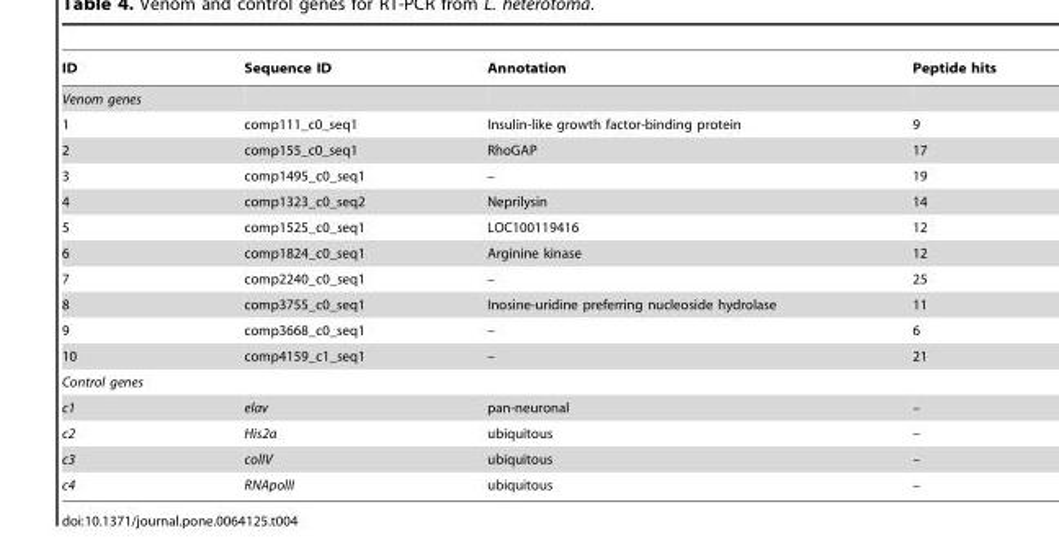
<table><thead><tr><td>ID</td><td>Sequence ID</td><td>Annotation</td><td>Peptide hits</td></tr></thead><tbody><tr><td colspan="4">Venom genes</td></tr><tr><td>1</td><td>comp111_c0_seq1</td><td>Insulin-like growth factor-binding protein</td><td>9</td></tr><tr><td>2</td><td>comp155_c0_seq1</td><td>RhoGAP</td><td>17</td></tr><tr><td>3</td><td>comp1495_c0_seq1</td><td>–</td><td>19</td></tr><tr><td>4</td><td>comp1323_c0_seq2</td><td>Neprilysin</td><td>14</td></tr><tr><td>5</td><td>comp1525_c0_seq1</td><td>LOC100119416</td><td>12</td></tr><tr><td>6</td><td>comp1824_c0_seq1</td><td>Arginine kinase</td><td>12</td></tr><tr><td>7</td><td>comp2240_c0_seq1</td><td>–</td><td>25</td></tr><tr><td>8</td><td>comp3755_c0_seq1</td><td>Inosine-uridine preferring nucleoside hydrolase</td><td>11</td></tr><tr><td>9</td><td>comp3668_c0_seq1</td><td>–</td><td>6</td></tr><tr><td>10</td><td>comp4159_c1_seq1</td><td>–</td><td>21</td></tr><tr><td colspan="4">Control genes</td></tr><tr><td>c1</td><td>elav</td><td>pan-neuronal</td><td>–</td></tr><tr><td>c2</td><td>His2a</td><td>ubiquitous</td><td>–</td></tr><tr><td>c3</td><td>colIV</td><td>ubiquitous</td><td>–</td></tr><tr><td>c4</td><td>RNApolII</td><td>ubiquitous</td><td>–</td></tr></tbody></table>